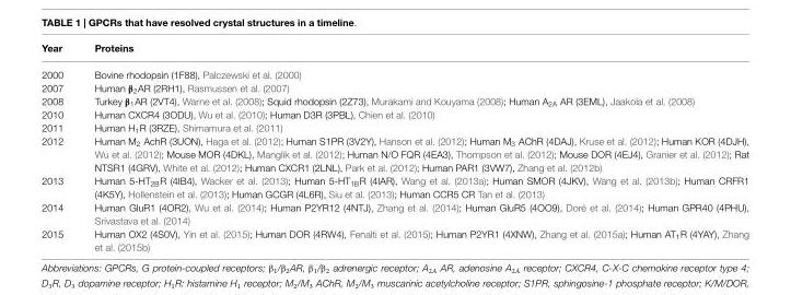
<table><thead><tr><td>Year</td><td>Proteins</td></tr></thead><tbody><tr><td>2000</td><td>Bovine rhodopsin (1F88), Palczewski et al. (2000)</td></tr><tr><td>2007</td><td>Human β<sub>2</sub>AR (2RH1), Rasmussen et al. (2007)</td></tr><tr><td>2008</td><td>Turkey β<sub>1</sub>AR (2VT4), Warne et al. (2008); Squid rhodopsin (2Z73), Murakami and Kouyama (2008); Human A<sub>2A</sub> AR (3EML), Jaakola et al. (2008)</td></tr><tr><td>2010</td><td>Human CXCR4 (3ODU), Wu et al. (2010); Human D3R (3PBL), Chien et al. (2010)</td></tr><tr><td>2011</td><td>Human H<sub>1</sub>R (3RZE), Shimamura et al. (2011)</td></tr><tr><td>2012</td><td>Human M<sub>2</sub> AchR (3UON), Haga et al. (2012); Human S1PR (3V2Y), Hanson et al. (2012); Human M<sub>3</sub> AChR (4DAJ), Kruse et al. (2012); Human KOR (4DJH), Wu et al. (2012); Mouse MOR (4DKL), Manglik et al. (2012); Human N/O FQR (4EA3), Thompson et al. (2012); Mouse DOR (4EJ4), Granier et al. (2012); Rat NTSR1 (4GRV), White et al. (2012); Human CXCR1 (2LNL), Park et al. (2012); Human PAR1 (3VW7), Zhang et al. (2012b)</td></tr><tr><td>2013</td><td>Human 5-HT<sub>2B</sub>R (4IB4), Wacker et al. (2013); Human 5-HT<sub>1B</sub>R (4IAR), Wang et al. (2013a); Human SMOR (4JKV), Wang et al. (2013b); Human CRFR1 (4K5Y), Hollenstein et al. (2013); Human GCGR (4L6R), Siu et al. (2013); Human CCR5 CR Tan et al. (2013)</td></tr><tr><td>2014</td><td>Human GluR1 (4OR2), Wu et al. (2014); Human P2YR12 (4NTJ), Zhang et al. (2014); Human GluR5 (4OO9), Doré et al. (2014); Human GPR40 (4PHU), Srivastava et al. (2014)</td></tr><tr><td>2015</td><td>Human OX2 (4S0V), Yin et al. (2015); Human DOR (4RW4), Fenalti et al. (2015); Human P2YR1 (4XNW), Zhang et al. (2015a); Human AT<sub>1</sub>R (4YAY), Zhang et al. (2015b)</td></tr></tbody></table>